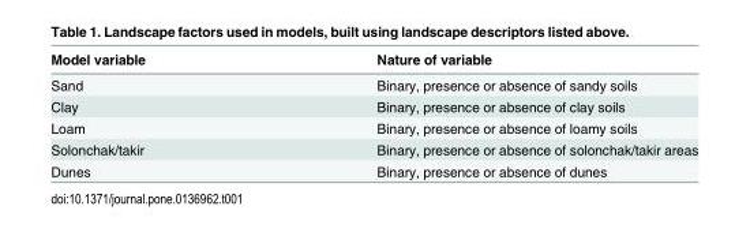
<table><thead><tr><td>Model variable</td><td>Nature of variable</td></tr></thead><tbody><tr><td>Sand</td><td>Binary, presence or absence of sandy soils</td></tr><tr><td>Clay</td><td>Binary, presence or absence of clay soils</td></tr><tr><td>Loam</td><td>Binary, presence or absence of loamy soils</td></tr><tr><td>Solonchak/takir</td><td>Binary, presence or absence of solonchak/takir areas</td></tr><tr><td>Dunes</td><td>Binary, presence or absence of dunes</td></tr></tbody></table>